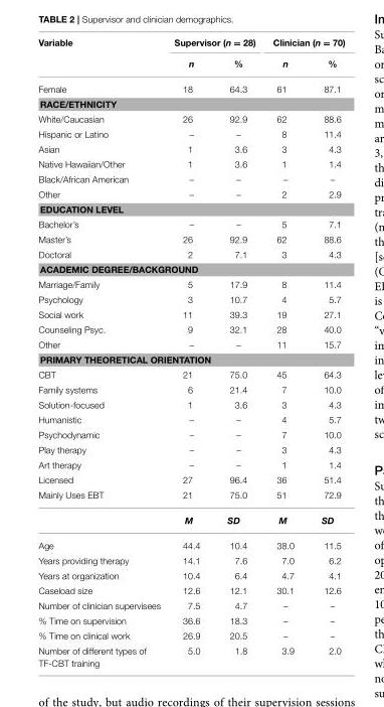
<table><thead><tr><td rowspan="2">Variable</td><td colspan="2">Supervisor (n = 28)</td><td colspan="2">Clinician (n = 70)</td></tr><tr><td>n</td><td>%</td><td>n</td><td>%</td></tr></thead><tbody><tr><td>Female</td><td>18</td><td>64.3</td><td>61</td><td>87.1</td></tr><tr><td colspan="5">RACE/ETHNICITY</td></tr><tr><td>White/Caucasian</td><td>26</td><td>92.9</td><td>62</td><td>88.6</td></tr><tr><td>Hispanic or Latino</td><td>–</td><td>–</td><td>8</td><td>11.4</td></tr><tr><td>Asian</td><td>1</td><td>3.6</td><td>3</td><td>4.3</td></tr><tr><td>Native Hawaiian/Other</td><td>1</td><td>3.6</td><td>1</td><td>1.4</td></tr><tr><td>Black/African American</td><td>–</td><td>–</td><td>–</td><td>–</td></tr><tr><td>Other</td><td>–</td><td>–</td><td>2</td><td>2.9</td></tr><tr><td colspan="5">EDUCATION LEVEL</td></tr><tr><td>Bachelor’s</td><td>–</td><td>–</td><td>5</td><td>7.1</td></tr><tr><td>Master’s</td><td>26</td><td>92.9</td><td>62</td><td>88.6</td></tr><tr><td>Doctoral</td><td>2</td><td>7.1</td><td>3</td><td>4.3</td></tr><tr><td colspan="5">ACADEMIC DEGREE/BACKGROUND</td></tr><tr><td>Marriage/Family</td><td>5</td><td>17.9</td><td>8</td><td>11.4</td></tr><tr><td>Psychology</td><td>3</td><td>10.7</td><td>4</td><td>5.7</td></tr><tr><td>Social work</td><td>11</td><td>39.3</td><td>19</td><td>27.1</td></tr><tr><td>Counseling Psyc.</td><td>9</td><td>32.1</td><td>28</td><td>40.0</td></tr><tr><td>Other</td><td>–</td><td>–</td><td>11</td><td>15.7</td></tr><tr><td colspan="5">PRIMARY THEORETICAL ORIENTATION</td></tr><tr><td>CBT</td><td>21</td><td>75.0</td><td>45</td><td>64.3</td></tr><tr><td>Family systems</td><td>6</td><td>21.4</td><td>7</td><td>10.0</td></tr><tr><td>Solution-focused</td><td>1</td><td>3.6</td><td>3</td><td>4.3</td></tr><tr><td>Humanistic</td><td>–</td><td>–</td><td>4</td><td>5.7</td></tr><tr><td>Psychodynamic</td><td>–</td><td>–</td><td>7</td><td>10.0</td></tr><tr><td>Play therapy</td><td>–</td><td>–</td><td>3</td><td>4.3</td></tr><tr><td>Art therapy</td><td>–</td><td>–</td><td>1</td><td>1.4</td></tr><tr><td>Licensed</td><td>27</td><td>96.4</td><td>36</td><td>51.4</td></tr><tr><td rowspan="2">Mainly Uses EBT</td><td>21</td><td>75.0</td><td>51</td><td>72.9</td></tr><tr><td>M</td><td>SD</td><td>M</td><td>SD</td></tr><tr><td>Age</td><td>44.4</td><td>10.4</td><td>38.0</td><td>11.5</td></tr><tr><td>Years providing therapy</td><td>14.1</td><td>7.6</td><td>7.0</td><td>6.2</td></tr><tr><td>Years at organization</td><td>10.4</td><td>6.4</td><td>4.7</td><td>4.1</td></tr><tr><td>Caseload size</td><td>12.6</td><td>12.1</td><td>30.1</td><td>12.6</td></tr><tr><td>Number of clinician supervisees</td><td>7.5</td><td>4.7</td><td>–</td><td>–</td></tr><tr><td>% Time on supervision</td><td>36.6</td><td>18.3</td><td>–</td><td>–</td></tr><tr><td>% Time on clinical work</td><td>26.9</td><td>20.5</td><td>–</td><td>–</td></tr><tr><td>Number of different types of TF-CBT training</td><td>5.0</td><td>1.8</td><td>3.9</td><td>2.0</td></tr></tbody></table>